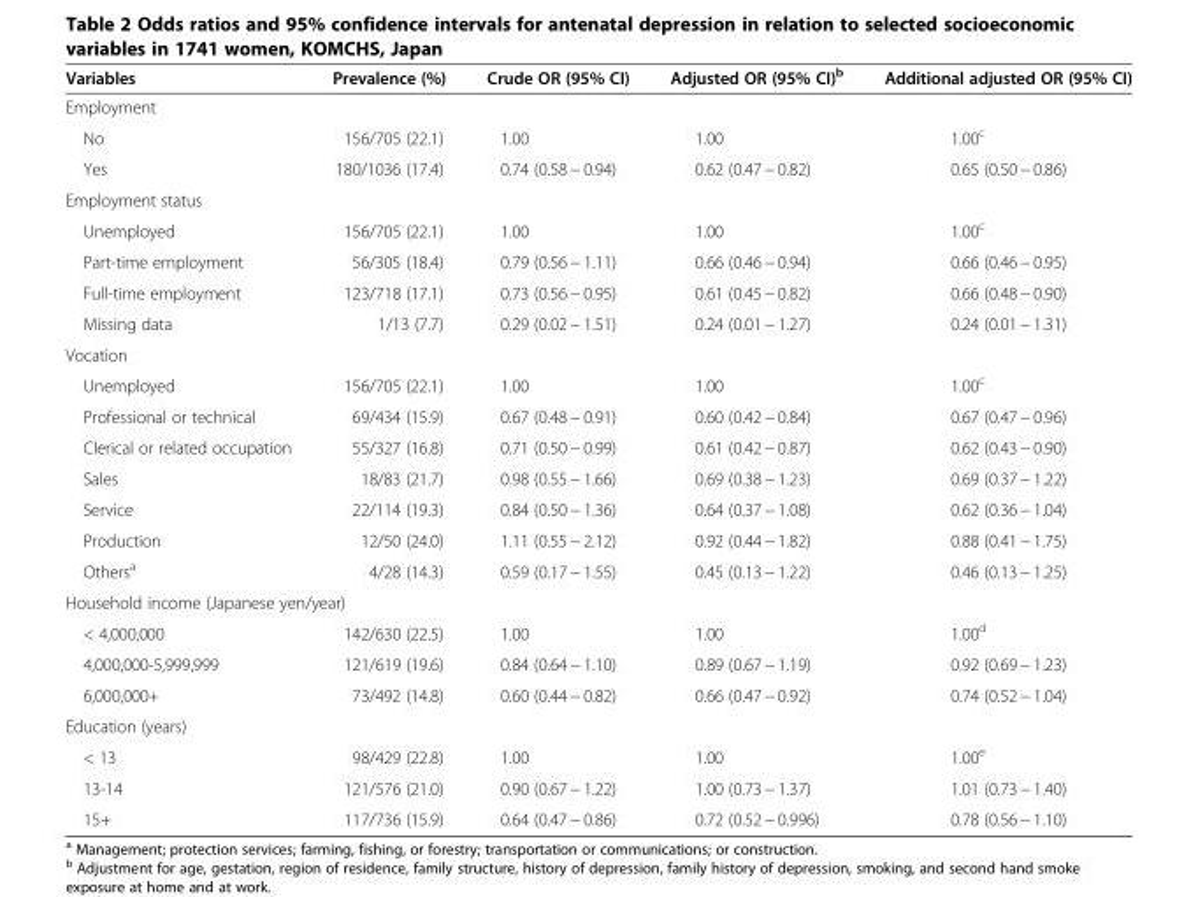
<table><thead><tr><td>Variables</td><td>Prevalence (%)</td><td>Crude OR (95% CI)</td><td>Adjusted OR (95% CI)<sup>b</sup></td><td>Additional adjusted OR (95% CI)</td></tr></thead><tbody><tr><td colspan="5">Employment</td></tr><tr><td>No</td><td>156/705 (22.1)</td><td>1.00</td><td>1.00</td><td>1.00<sup>c</sup></td></tr><tr><td>Yes</td><td>180/1036 (17.4)</td><td>0.74 (0.58 − 0.94)</td><td>0.62 (0.47 − 0.82)</td><td>0.65 (0.50 − 0.86)</td></tr><tr><td colspan="5">Employment status</td></tr><tr><td>Unemployed</td><td>156/705 (22.1)</td><td>1.00</td><td>1.00</td><td>1.00<sup>c</sup></td></tr><tr><td>Part-time employment</td><td>56/305 (18.4)</td><td>0.79 (0.56 − 1.11)</td><td>0.66 (0.46 − 0.94)</td><td>0.66 (0.46 − 0.95)</td></tr><tr><td>Full-time employment</td><td>123/718 (17.1)</td><td>0.73 (0.56 − 0.95)</td><td>0.61 (0.45 − 0.82)</td><td>0.66 (0.48 − 0.90)</td></tr><tr><td>Missing data</td><td>1/13 (7.7)</td><td>0.29 (0.02 − 1.51)</td><td>0.24 (0.01 − 1.27)</td><td>0.24 (0.01 − 1.31)</td></tr><tr><td colspan="5">Vocation</td></tr><tr><td>Unemployed</td><td>156/705 (22.1)</td><td>1.00</td><td>1.00</td><td>1.00<sup>c</sup></td></tr><tr><td>Professional or technical</td><td>69/434 (15.9)</td><td>0.67 (0.48 − 0.91)</td><td>0.60 (0.42 − 0.84)</td><td>0.67 (0.47 − 0.96)</td></tr><tr><td>Clerical or related occupation</td><td>55/327 (16.8)</td><td>0.71 (0.50 − 0.99)</td><td>0.61 (0.42 − 0.87)</td><td>0.62 (0.43 − 0.90)</td></tr><tr><td>Sales</td><td>18/83 (21.7)</td><td>0.98 (0.55 − 1.66)</td><td>0.69 (0.38 − 1.23)</td><td>0.69 (0.37 − 1.22)</td></tr><tr><td>Service</td><td>22/114 (19.3)</td><td>0.84 (0.50 − 1.36)</td><td>0.64 (0.37 − 1.08)</td><td>0.62 (0.36 − 1.04)</td></tr><tr><td>Production</td><td>12/50 (24.0)</td><td>1.11 (0.55 − 2.12)</td><td>0.92 (0.44 − 1.82)</td><td>0.88 (0.41 − 1.75)</td></tr><tr><td>Others<sup>a</sup></td><td>4/28 (14.3)</td><td>0.59 (0.17 − 1.55)</td><td>0.45 (0.13 − 1.22)</td><td>0.46 (0.13 − 1.25)</td></tr><tr><td colspan="5">Household income (Japanese yen/year)</td></tr><tr><td>&lt; 4,000,000</td><td>142/630 (22.5)</td><td>1.00</td><td>1.00</td><td>1.00<sup>d</sup></td></tr><tr><td>4,000,000-5,999,999</td><td>121/619 (19.6)</td><td>0.84 (0.64 − 1.10)</td><td>0.89 (0.67 − 1.19)</td><td>0.92 (0.69 − 1.23)</td></tr><tr><td>6,000,000+</td><td>73/492 (14.8)</td><td>0.60 (0.44 − 0.82)</td><td>0.66 (0.47 − 0.92)</td><td>0.74 (0.52 − 1.04)</td></tr><tr><td colspan="5">Education (years)</td></tr><tr><td>&lt; 13</td><td>98/429 (22.8)</td><td>1.00</td><td>1.00</td><td>1.00<sup>e</sup></td></tr><tr><td>13-14</td><td>121/576 (21.0)</td><td>0.90 (0.67 − 1.22)</td><td>1.00 (0.73 − 1.37)</td><td>1.01 (0.73 − 1.40)</td></tr><tr><td>15+</td><td>117/736 (15.9)</td><td>0.64 (0.47 − 0.86)</td><td>0.72 (0.52 − 0.996)</td><td>0.78 (0.56 − 1.10)</td></tr></tbody></table>